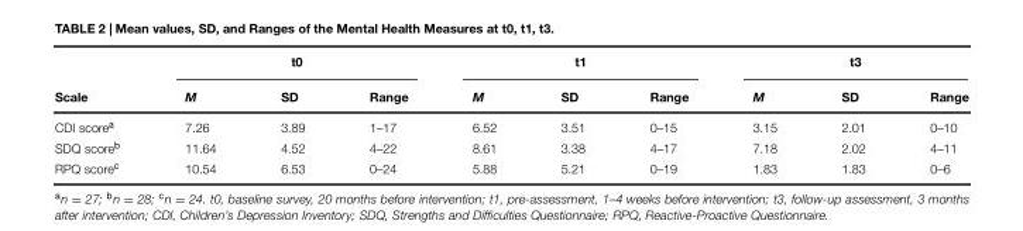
<table><thead><tr><td rowspan="2">Scale</td><td colspan="3">t0</td><td colspan="3">t1</td><td colspan="3">t3</td></tr><tr><td>M</td><td>SD</td><td>Range</td><td>M</td><td>SD</td><td>Range</td><td>M</td><td>SD</td><td>Range</td></tr></thead><tbody><tr><td>CDI score<sup>a</sup></td><td>7.26</td><td>3.89</td><td>1–17</td><td>6.52</td><td>3.51</td><td>0–15</td><td>3.15</td><td>2.01</td><td>0–10</td></tr><tr><td>SDQ score<sup>b</sup></td><td>11.64</td><td>4.52</td><td>4–22</td><td>8.61</td><td>3.38</td><td>4–17</td><td>7.18</td><td>2.02</td><td>4–11</td></tr><tr><td>RPQ score<sup>c</sup></td><td>10.54</td><td>6.53</td><td>0–24</td><td>5.88</td><td>5.21</td><td>0–19</td><td>1.83</td><td>1.83</td><td>0–6</td></tr></tbody></table>